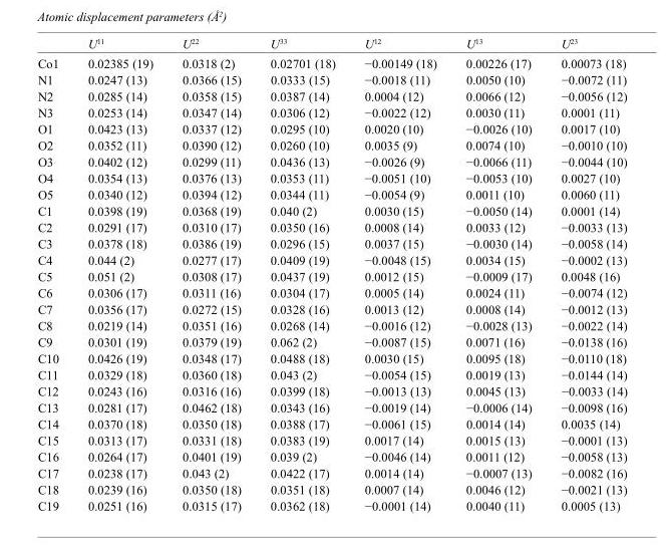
<table><thead><tr><td></td><td>U<sup>11</sup></td><td>U<sup>22</sup></td><td>U<sup>33</sup></td><td>U<sup>12</sup></td><td>U<sup>13</sup></td><td>U<sup>23</sup></td></tr></thead><tbody><tr><td>Co1</td><td>0.02385 (19)</td><td>0.0318 (2)</td><td>0.02701 (18)</td><td>−0.00149 (18)</td><td>0.00226 (17)</td><td>0.00073 (18)</td></tr><tr><td>N1</td><td>0.0247 (13)</td><td>0.0366 (15)</td><td>0.0333 (15)</td><td>−0.0018 (11)</td><td>0.0050 (10)</td><td>−0.0072 (11)</td></tr><tr><td>N2</td><td>0.0285 (14)</td><td>0.0358 (15)</td><td>0.0387 (14)</td><td>0.0004 (12)</td><td>0.0066 (12)</td><td>−0.0056 (12)</td></tr><tr><td>N3</td><td>0.0253 (14)</td><td>0.0347 (14)</td><td>0.0306 (12)</td><td>−0.0022 (12)</td><td>0.0030 (11)</td><td>0.0001 (11)</td></tr><tr><td>O1</td><td>0.0423 (13)</td><td>0.0337 (12)</td><td>0.0295 (10)</td><td>0.0020 (10)</td><td>−0.0026 (10)</td><td>0.0017 (10)</td></tr><tr><td>O2</td><td>0.0352 (11)</td><td>0.0390 (12)</td><td>0.0260 (10)</td><td>0.0035 (9)</td><td>0.0074 (10)</td><td>−0.0010 (10)</td></tr><tr><td>O3</td><td>0.0402 (12)</td><td>0.0299 (11)</td><td>0.0436 (13)</td><td>−0.0026 (9)</td><td>−0.0066 (11)</td><td>−0.0044 (10)</td></tr><tr><td>O4</td><td>0.0354 (13)</td><td>0.0376 (13)</td><td>0.0353 (11)</td><td>−0.0051 (10)</td><td>−0.0053 (10)</td><td>0.0027 (10)</td></tr><tr><td>O5</td><td>0.0340 (12)</td><td>0.0394 (12)</td><td>0.0344 (11)</td><td>−0.0054 (9)</td><td>0.0011 (10)</td><td>0.0060 (11)</td></tr><tr><td>C1</td><td>0.0398 (19)</td><td>0.0368 (19)</td><td>0.040 (2)</td><td>0.0030 (15)</td><td>−0.0050 (14)</td><td>0.0001 (14)</td></tr><tr><td>C2</td><td>0.0291 (17)</td><td>0.0310 (17)</td><td>0.0350 (16)</td><td>0.0008 (14)</td><td>0.0033 (12)</td><td>−0.0033 (13)</td></tr><tr><td>C3</td><td>0.0378 (18)</td><td>0.0386 (19)</td><td>0.0296 (15)</td><td>0.0037 (15)</td><td>−0.0030 (14)</td><td>−0.0058 (14)</td></tr><tr><td>C4</td><td>0.044 (2)</td><td>0.0277 (17)</td><td>0.0409 (19)</td><td>−0.0048 (15)</td><td>0.0034 (15)</td><td>−0.0002 (13)</td></tr><tr><td>C5</td><td>0.051 (2)</td><td>0.0308 (17)</td><td>0.0437 (19)</td><td>0.0012 (15)</td><td>−0.0009 (17)</td><td>0.0048 (16)</td></tr><tr><td>C6</td><td>0.0306 (17)</td><td>0.0311 (16)</td><td>0.0304 (17)</td><td>0.0005 (14)</td><td>0.0024 (11)</td><td>−0.0074 (12)</td></tr><tr><td>C7</td><td>0.0356 (17)</td><td>0.0272 (15)</td><td>0.0328 (16)</td><td>0.0013 (12)</td><td>0.0008 (14)</td><td>−0.0012 (13)</td></tr><tr><td>C8</td><td>0.0219 (14)</td><td>0.0351 (16)</td><td>0.0268 (14)</td><td>−0.0016 (12)</td><td>−0.0028 (13)</td><td>−0.0022 (14)</td></tr><tr><td>C9</td><td>0.0301 (19)</td><td>0.0379 (19)</td><td>0.062 (2)</td><td>−0.0087 (15)</td><td>0.0071 (16)</td><td>−0.0138 (16)</td></tr><tr><td>C10</td><td>0.0426 (19)</td><td>0.0348 (17)</td><td>0.0488 (18)</td><td>0.0030 (15)</td><td>0.0095 (18)</td><td>−0.0110 (18)</td></tr><tr><td>C11</td><td>0.0329 (18)</td><td>0.0360 (18)</td><td>0.043 (2)</td><td>−0.0054 (15)</td><td>0.0019 (13)</td><td>−0.0144 (14)</td></tr><tr><td>C12</td><td>0.0243 (16)</td><td>0.0316 (16)</td><td>0.0399 (18)</td><td>−0.0013 (13)</td><td>0.0045 (13)</td><td>−0.0033 (14)</td></tr><tr><td>C13</td><td>0.0281 (17)</td><td>0.0462 (18)</td><td>0.0343 (16)</td><td>−0.0019 (14)</td><td>−0.0006 (14)</td><td>−0.0098 (16)</td></tr><tr><td>C14</td><td>0.0370 (18)</td><td>0.0350 (18)</td><td>0.0388 (17)</td><td>−0.0061 (15)</td><td>0.0014 (14)</td><td>0.0035 (14)</td></tr><tr><td>C15</td><td>0.0313 (17)</td><td>0.0331 (18)</td><td>0.0383 (19)</td><td>0.0017 (14)</td><td>0.0015 (13)</td><td>−0.0001 (13)</td></tr><tr><td>C16</td><td>0.0264 (17)</td><td>0.0401 (19)</td><td>0.039 (2)</td><td>−0.0046 (14)</td><td>0.0011 (12)</td><td>−0.0058 (13)</td></tr><tr><td>C17</td><td>0.0238 (17)</td><td>0.043 (2)</td><td>0.0422 (17)</td><td>0.0014 (14)</td><td>−0.0007 (13)</td><td>−0.0082 (16)</td></tr><tr><td>C18</td><td>0.0239 (16)</td><td>0.0350 (18)</td><td>0.0351 (18)</td><td>0.0007 (14)</td><td>0.0046 (12)</td><td>−0.0021 (13)</td></tr><tr><td>C19</td><td>0.0251 (16)</td><td>0.0315 (17)</td><td>0.0362 (18)</td><td>−0.0001 (14)</td><td>0.0040 (11)</td><td>0.0005 (13)</td></tr></tbody></table>